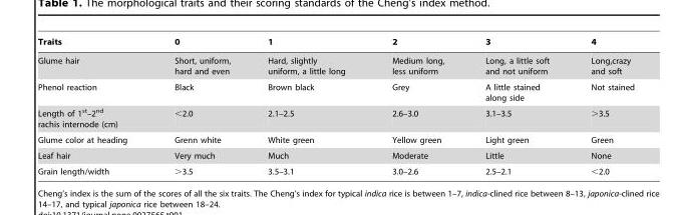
<table><thead><tr><td>Traits</td><td>0</td><td>1</td><td>2</td><td>3</td><td>4</td></tr></thead><tbody><tr><td>Glume hair</td><td>Short, uniform, hard and even</td><td>Hard, slightly uniform, a little long</td><td>Medium long, less uniform</td><td>Long, a little soft and not uniform</td><td>Long,crazy and soft</td></tr><tr><td>Phenol reaction</td><td>Black</td><td>Brown black</td><td>Grey</td><td>A little stained along side</td><td>Not stained</td></tr><tr><td>Length of 1<sup>st</sup>–2<sup>nd</sup> rachis internode (cm)</td><td>&lt;2.0</td><td>2.1–2.5</td><td>2.6–3.0</td><td>3.1–3.5</td><td>&gt;3.5</td></tr><tr><td>Glume color at heading</td><td>Grenn white</td><td>White green</td><td>Yellow green</td><td>Light green</td><td>Green</td></tr><tr><td>Leaf hair</td><td>Very much</td><td>Much</td><td>Moderate</td><td>Little</td><td>None</td></tr><tr><td>Grain length/width</td><td>&gt;3.5</td><td>3.5–3.1</td><td>3.0–2.6</td><td>2.5–2.1</td><td>&lt;2.0</td></tr></tbody></table>